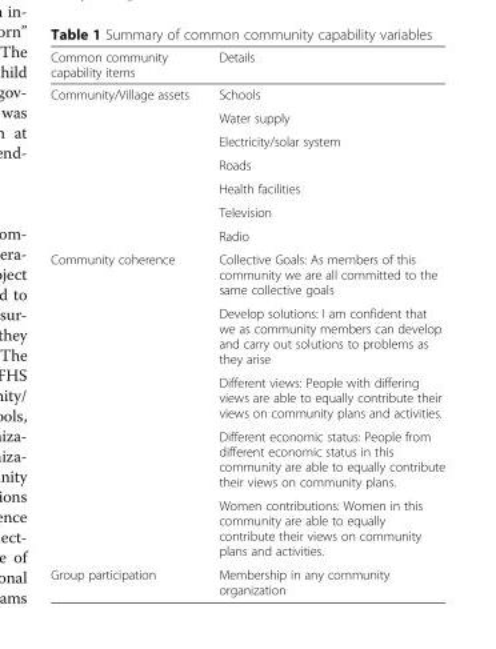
<table><thead><tr><td>Common community capability items</td><td>Details</td></tr></thead><tbody><tr><td rowspan="7">Community/Village assets</td><td>Schools</td></tr><tr><td>Water supply</td></tr><tr><td>Electricity/solar system</td></tr><tr><td>Roads</td></tr><tr><td>Health facilities</td></tr><tr><td>Television</td></tr><tr><td>Radio</td></tr><tr><td rowspan="5">Community coherence</td><td>Collective Goals: As members of this community we are all committed to the same collective goals</td></tr><tr><td>Develop solutions: I am confident that we as community members can develop and carry out solutions to problems as they arise</td></tr><tr><td>Different views: People with differing views are able to equally contribute their views on community plans and activities.</td></tr><tr><td>Different economic status: People from different economic status in this community are able to equally contribute their views on community plans.</td></tr><tr><td>Women contributions: Women in this community are able to equally contribute their views on community plans and activities.</td></tr><tr><td>Group participation</td><td>Membership in any community organization</td></tr></tbody></table>